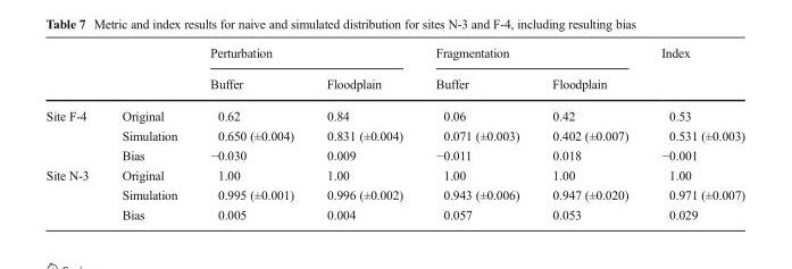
<table><thead><tr><td rowspan="2"></td><td rowspan="2"></td><td colspan="2">Perturbation</td><td colspan="2">Fragmentation</td><td rowspan="2">Index</td></tr><tr><td>Buffer</td><td>Floodplain</td><td>Buffer</td><td>Floodplain</td></tr></thead><tbody><tr><td rowspan="3">Site F-4</td><td>Original</td><td>0.62</td><td>0.84</td><td>0.06</td><td>0.42</td><td>0.53</td></tr><tr><td>Simulation</td><td>0.650 (±0.004)</td><td>0.831 (±0.004)</td><td>0.071 (±0.003)</td><td>0.402 (±0.007)</td><td>0.531 (±0.003)</td></tr><tr><td>Bias</td><td>−0.030</td><td>0.009</td><td>−0.011</td><td>0.018</td><td>−0.001</td></tr><tr><td rowspan="3">Site N-3</td><td>Original</td><td>1.00</td><td>1.00</td><td>1.00</td><td>1.00</td><td>1.00</td></tr><tr><td>Simulation</td><td>0.995 (±0.001)</td><td>0.996 (±0.002)</td><td>0.943 (±0.006)</td><td>0.947 (±0.020)</td><td>0.971 (±0.007)</td></tr><tr><td>Bias</td><td>0.005</td><td>0.004</td><td>0.057</td><td>0.053</td><td>0.029</td></tr></tbody></table>